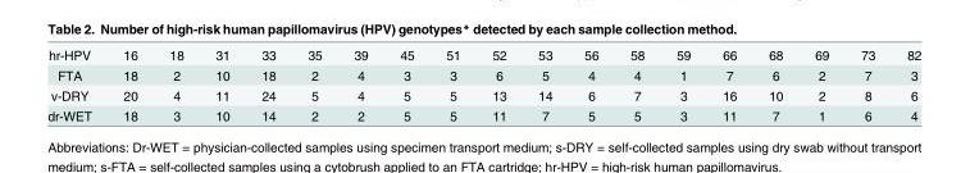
<table><tbody><tr><td>hr-HPV</td><td>16</td><td>18</td><td>31</td><td>33</td><td>35</td><td>39</td><td>45</td><td>51</td><td>52</td><td>53</td><td>56</td><td>58</td><td>59</td><td>66</td><td>68</td><td>69</td><td>73</td><td>82</td></tr><tr><td>FTA</td><td>18</td><td>2</td><td>10</td><td>18</td><td>2</td><td>4</td><td>3</td><td>3</td><td>6</td><td>5</td><td>4</td><td>4</td><td>1</td><td>7</td><td>6</td><td>2</td><td>7</td><td>3</td></tr><tr><td>v-DRY</td><td>20</td><td>4</td><td>11</td><td>24</td><td>5</td><td>4</td><td>5</td><td>5</td><td>13</td><td>14</td><td>6</td><td>7</td><td>3</td><td>16</td><td>10</td><td>2</td><td>8</td><td>6</td></tr><tr><td>dr-WET</td><td>18</td><td>3</td><td>10</td><td>14</td><td>2</td><td>2</td><td>5</td><td>5</td><td>11</td><td>7</td><td>5</td><td>5</td><td>3</td><td>11</td><td>7</td><td>1</td><td>6</td><td>4</td></tr></tbody></table>